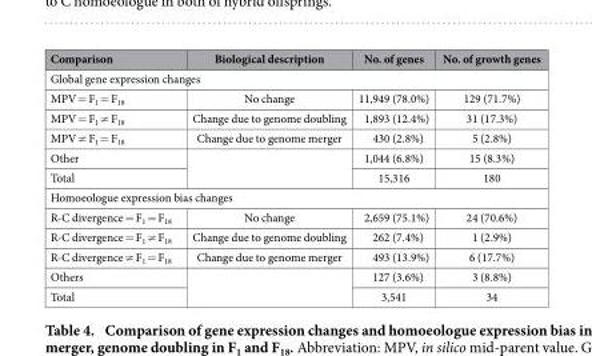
<table><thead><tr><td>Comparison</td><td>Biological description</td><td>No. of genes</td><td>No. of growth genes</td></tr></thead><tbody><tr><td colspan="4">Global gene expression changes</td></tr><tr><td>MPV = F<sub>1</sub> = F<sub>18</sub></td><td>No change</td><td>11,949 (78.0%)</td><td>129 (71.7%)</td></tr><tr><td>MPV = F<sub>1</sub> ≠ F<sub>18</sub></td><td>Change due to genome doubling</td><td>1,893 (12.4%)</td><td>31 (17.3%)</td></tr><tr><td>MPV ≠ F<sub>1</sub> = F<sub>18</sub></td><td>Change due to genome merger</td><td>430 (2.8%)</td><td>5 (2.8%)</td></tr><tr><td>Other</td><td rowspan="2"></td><td>1,044 (6.8%)</td><td>15 (8.3%)</td></tr><tr><td>Total</td><td>15,316</td><td>180</td></tr><tr><td colspan="4">Homoeologue expression bias changes</td></tr><tr><td>R-C divergence = F<sub>1</sub> = F<sub>18</sub></td><td>No change</td><td>2,659 (75.1%)</td><td>24 (70.6%)</td></tr><tr><td>R-C divergence = F<sub>1</sub> ≠ F<sub>18</sub></td><td>Change due to genome doubling</td><td>262 (7.4%)</td><td>1 (2.9%)</td></tr><tr><td>R-C divergence ≠ F<sub>1</sub> = F<sub>18</sub></td><td>Change due to genome merger</td><td>493 (13.9%)</td><td>6 (17.7%)</td></tr><tr><td>Others</td><td rowspan="2"></td><td>127 (3.6%)</td><td>3 (8.8%)</td></tr><tr><td>Total</td><td>3,541</td><td>34</td></tr></tbody></table>